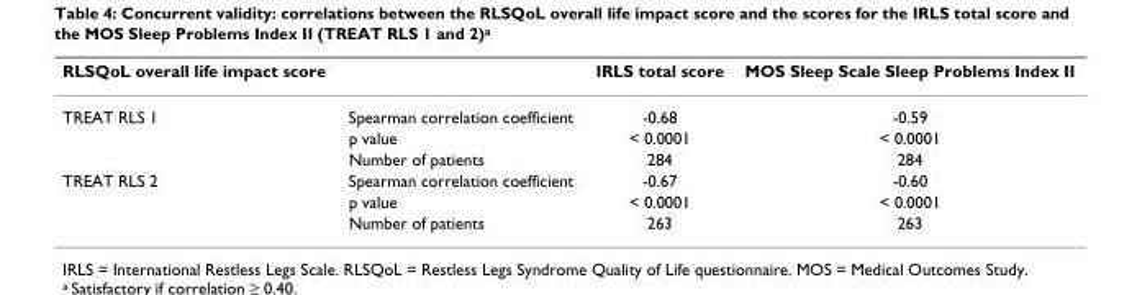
<table><thead><tr><td>RLSQoL overall life impact score</td><td></td><td>IRLS total score</td><td>MOS Sleep Scale Sleep Problems Index II</td></tr></thead><tbody><tr><td rowspan="3">TREAT RLS 1</td><td>Spearman correlation coefficient</td><td>-0.68</td><td>-0.59</td></tr><tr><td>p value</td><td>&lt; 0.0001</td><td>&lt; 0.0001</td></tr><tr><td>Number of patients</td><td>284</td><td>284</td></tr><tr><td rowspan="3">TREAT RLS 2</td><td>Spearman correlation coefficient</td><td>-0.67</td><td>-0.60</td></tr><tr><td>p value</td><td>&lt; 0.0001</td><td>&lt; 0.0001</td></tr><tr><td>Number of patients</td><td>263</td><td>263</td></tr></tbody></table>